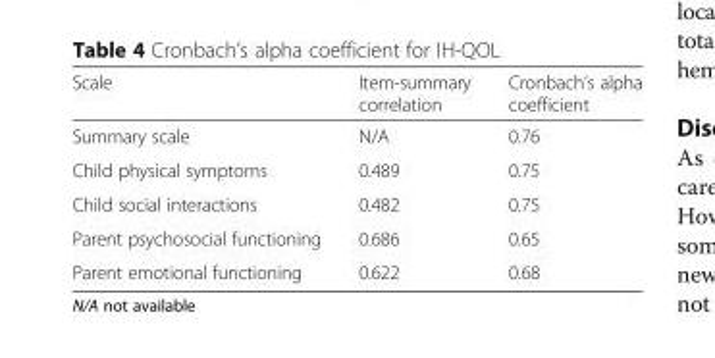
<table><thead><tr><td>Scale</td><td>Item-summary correlation</td><td>Cronbach’s alpha coefficient</td></tr></thead><tbody><tr><td>Summary scale</td><td>N/A</td><td>0.76</td></tr><tr><td>Child physical symptoms</td><td>0.489</td><td>0.75</td></tr><tr><td>Child social interactions</td><td>0.482</td><td>0.75</td></tr><tr><td>Parent psychosocial functioning</td><td>0.686</td><td>0.65</td></tr><tr><td>Parent emotional functioning</td><td>0.622</td><td>0.68</td></tr></tbody></table>